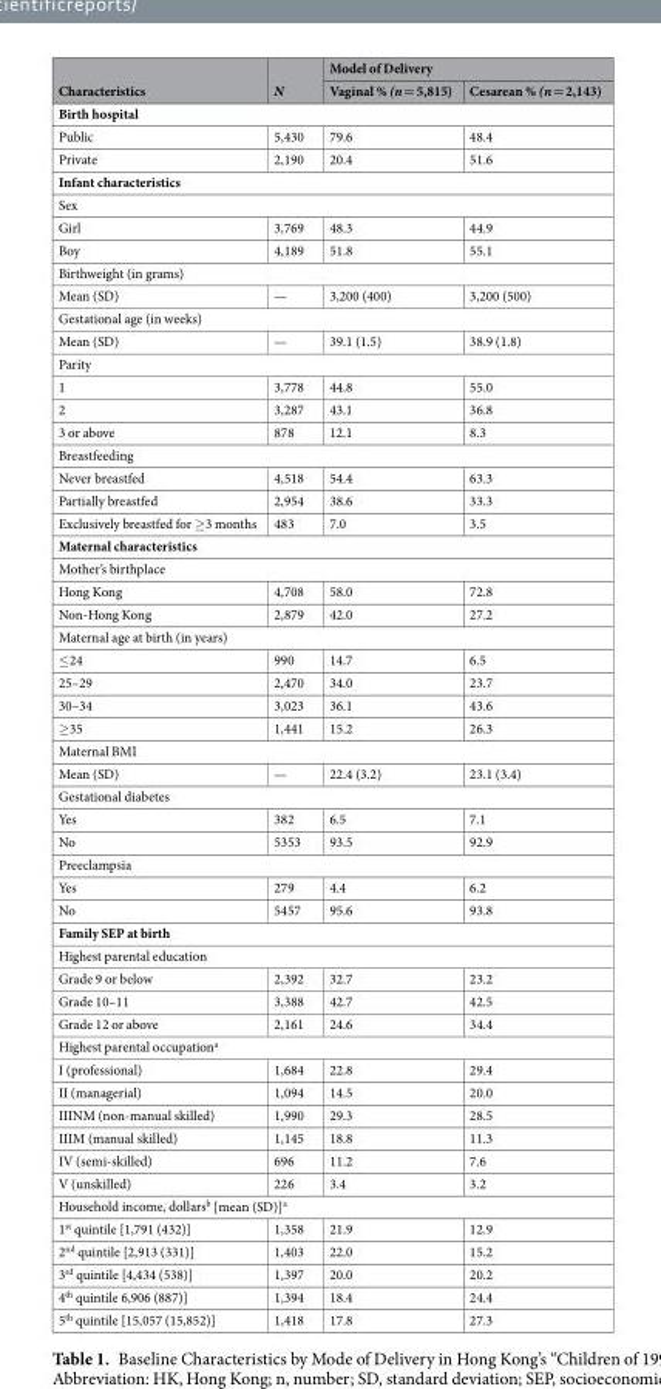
<table><thead><tr><td rowspan="2">Characteristics</td><td rowspan="2">N</td><td colspan="2">Model of Delivery</td></tr><tr><td>Vaginal % (n = 5,815)</td><td>Cesarean % (n = 2,143)</td></tr></thead><tbody><tr><td colspan="4">Birth hospital</td></tr><tr><td>Public</td><td>5,430</td><td>79.6</td><td>48.4</td></tr><tr><td>Private</td><td>2,190</td><td>20.4</td><td>51.6</td></tr><tr><td colspan="4">Infant characteristics</td></tr><tr><td colspan="4">Sex</td></tr><tr><td>Girl</td><td>3,769</td><td>48.3</td><td>44.9</td></tr><tr><td>Boy</td><td>4,189</td><td>51.8</td><td>55.1</td></tr><tr><td colspan="4">Birthweight (in grams)</td></tr><tr><td>Mean (SD)</td><td>—</td><td>3,200 (400)</td><td>3,200 (500)</td></tr><tr><td colspan="4">Gestational age (in weeks)</td></tr><tr><td>Mean (SD)</td><td>—</td><td>39.1 (1.5)</td><td>38.9 (1.8)</td></tr><tr><td colspan="4">Parity</td></tr><tr><td>1</td><td>3,778</td><td>44.8</td><td>55.0</td></tr><tr><td>2</td><td>3,287</td><td>43.1</td><td>36.8</td></tr><tr><td>3 or above</td><td>878</td><td>12.1</td><td>8.3</td></tr><tr><td colspan="4">Breastfeeding</td></tr><tr><td>Never breastfed</td><td>4,518</td><td>54.4</td><td>63.3</td></tr><tr><td>Partially breastfed</td><td>2,954</td><td>38.6</td><td>33.3</td></tr><tr><td>Exclusively breastfed for ≥3 months</td><td>483</td><td>7.0</td><td>3.5</td></tr><tr><td colspan="4">Maternal characteristics</td></tr><tr><td colspan="4">Mother’s birthplace</td></tr><tr><td>Hong Kong</td><td>4,708</td><td>58.0</td><td>72.8</td></tr><tr><td>Non-Hong Kong</td><td>2,879</td><td>42.0</td><td>27.2</td></tr><tr><td colspan="4">Maternal age at birth (in years)</td></tr><tr><td>≤24</td><td>990</td><td>14.7</td><td>6.5</td></tr><tr><td>25–29</td><td>2,470</td><td>34.0</td><td>23.7</td></tr><tr><td>30–34</td><td>3,023</td><td>36.1</td><td>43.6</td></tr><tr><td>≥35</td><td>1,441</td><td>15.2</td><td>26.3</td></tr><tr><td colspan="4">Maternal BMI</td></tr><tr><td>Mean (SD)</td><td>—</td><td>22.4 (3.2)</td><td>23.1 (3.4)</td></tr><tr><td colspan="4">Gestational diabetes</td></tr><tr><td>Yes</td><td>382</td><td>6.5</td><td>7.1</td></tr><tr><td>No</td><td>5353</td><td>93.5</td><td>92.9</td></tr><tr><td colspan="4">Preeclampsia</td></tr><tr><td>Yes</td><td>279</td><td>4.4</td><td>6.2</td></tr><tr><td>No</td><td>5457</td><td>95.6</td><td>93.8</td></tr><tr><td colspan="4">Family SEP at birth</td></tr><tr><td colspan="4">Highest parental education</td></tr><tr><td>Grade 9 or below</td><td>2,392</td><td>32.7</td><td>23.2</td></tr><tr><td>Grade 10–11</td><td>3,388</td><td>42.7</td><td>42.5</td></tr><tr><td>Grade 12 or above</td><td>2,161</td><td>24.6</td><td>34.4</td></tr><tr><td colspan="4">Highest parental occupation<sup>a</sup></td></tr><tr><td>I (professional)</td><td>1,684</td><td>22.8</td><td>29.4</td></tr><tr><td>II (managerial)</td><td>1,094</td><td>14.5</td><td>20.0</td></tr><tr><td>IIINM (non-manual skilled)</td><td>1,990</td><td>29.3</td><td>28.5</td></tr><tr><td>IIIM (manual skilled)</td><td>1,145</td><td>18.8</td><td>11.3</td></tr><tr><td>IV (semi-skilled)</td><td>696</td><td>11.2</td><td>7.6</td></tr><tr><td>V (unskilled)</td><td>226</td><td>3.4</td><td>3.2</td></tr><tr><td colspan="4">Household income, dollars<sup>b</sup> [mean (SD)]<sup>a</sup></td></tr><tr><td>1<sup>st</sup> quintile [1,791 (432)]</td><td>1,358</td><td>21.9</td><td>12.9</td></tr><tr><td>2<sup>nd</sup> quintile [2,913 (331)]</td><td>1,403</td><td>22.0</td><td>15.2</td></tr><tr><td>3<sup>rd</sup> quintile [4,434 (538)]</td><td>1,397</td><td>20.0</td><td>20.2</td></tr><tr><td>4<sup>th</sup> quintile 6,906 (887)]</td><td>1,394</td><td>18.4</td><td>24.4</td></tr><tr><td>5<sup>th</sup> quintile [15,057 (15,852)]</td><td>1,418</td><td>17.8</td><td>27.3</td></tr></tbody></table>